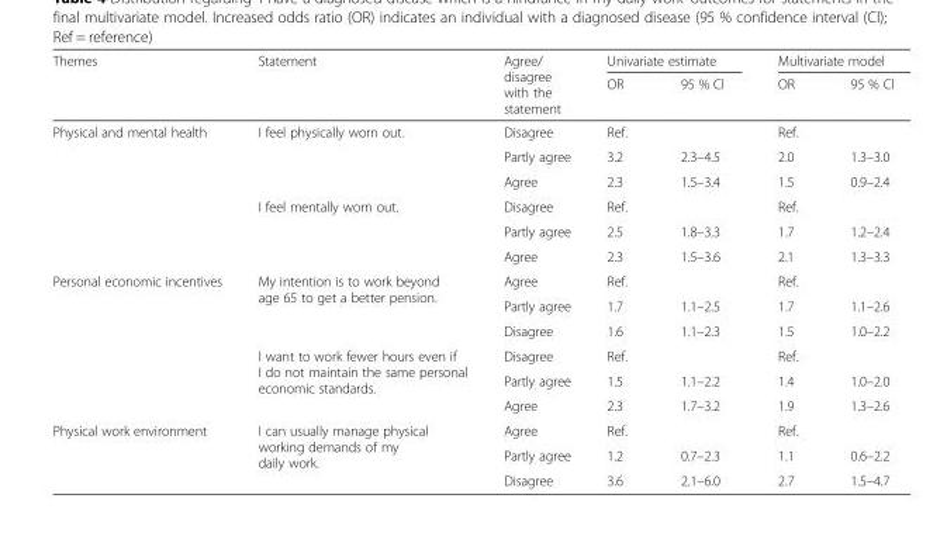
<table><thead><tr><td rowspan="2">Themes</td><td rowspan="2">Statement</td><td rowspan="2">Agree/ disagree with the statement</td><td colspan="2">Univariate estimate</td><td colspan="2">Multivariate model</td></tr><tr><td>OR</td><td>95 % Cl</td><td>OR</td><td>95 % Cl</td></tr></thead><tbody><tr><td rowspan="6">Physical and mental health</td><td rowspan="3">I feel physically worn out.</td><td>Disagree</td><td>Ref.</td><td></td><td>Ref.</td><td></td></tr><tr><td>Partly agree</td><td>3.2</td><td>2.3–4.5</td><td>2.0</td><td>1.3–3.0</td></tr><tr><td>Agree</td><td>2.3</td><td>1.5–3.4</td><td>1.5</td><td>0.9–2.4</td></tr><tr><td rowspan="3">I feel mentally worn out.</td><td>Disagree</td><td>Ref.</td><td></td><td>Ref.</td><td></td></tr><tr><td>Partly agree</td><td>2.5</td><td>1.8–3.3</td><td>1.7</td><td>1.2–2.4</td></tr><tr><td>Agree</td><td>2.3</td><td>1.5–3.6</td><td>2.1</td><td>1.3–3.3</td></tr><tr><td rowspan="6">Personal economic incentives</td><td rowspan="3">My intention is to work beyond age 65 to get a better pension.</td><td>Agree</td><td>Ref.</td><td></td><td>Ref.</td><td></td></tr><tr><td>Partly agree</td><td>1.7</td><td>1.1–2.5</td><td>1.7</td><td>1.1–2.6</td></tr><tr><td>Disagree</td><td>1.6</td><td>1.1–2.3</td><td>1.5</td><td>1.0–2.2</td></tr><tr><td rowspan="3">I want to work fewer hours even if I do not maintain the same personal economic standards.</td><td>Disagree</td><td>Ref.</td><td></td><td>Ref.</td><td></td></tr><tr><td>Partly agree</td><td>1.5</td><td>1.1–2.2</td><td>1.4</td><td>1.0–2.0</td></tr><tr><td>Agree</td><td>2.3</td><td>1.7–3.2</td><td>1.9</td><td>1.3–2.6</td></tr><tr><td rowspan="3">Physical work environment</td><td rowspan="3">I can usually manage physical working demands of my daily work.</td><td>Agree</td><td>Ref.</td><td></td><td>Ref.</td><td></td></tr><tr><td>Partly agree</td><td>1.2</td><td>0.7–2.3</td><td>1.1</td><td>0.6–2.2</td></tr><tr><td>Disagree</td><td>3.6</td><td>2.1–6.0</td><td>2.7</td><td>1.5–4.7</td></tr></tbody></table>